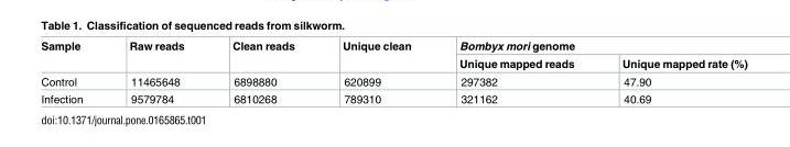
<table><thead><tr><td rowspan="2">Sample</td><td rowspan="2">Raw reads</td><td rowspan="2">Clean reads</td><td rowspan="2">Unique clean</td><td colspan="2">Bombyx mori genome</td></tr><tr><td>Unique mapped reads</td><td>Unique mapped rate (%)</td></tr></thead><tbody><tr><td>Control</td><td>11465648</td><td>6898880</td><td>620899</td><td>297382</td><td>47.90</td></tr><tr><td>Infection</td><td>9579784</td><td>6810268</td><td>789310</td><td>321162</td><td>40.69</td></tr></tbody></table>